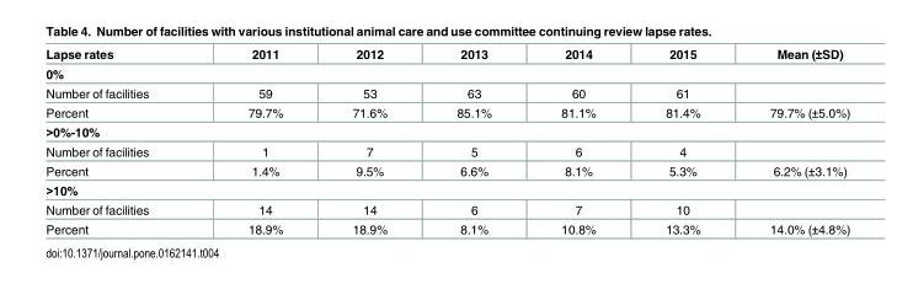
<table><thead><tr><td>Lapse rates</td><td>2011</td><td>2012</td><td>2013</td><td>2014</td><td>2015</td><td>Mean (±SD)</td></tr></thead><tbody><tr><td colspan="7">0%</td></tr><tr><td>Number of facilities</td><td>59</td><td>53</td><td>63</td><td>60</td><td>61</td><td></td></tr><tr><td>Percent</td><td>79.7%</td><td>71.6%</td><td>85.1%</td><td>81.1%</td><td>81.4%</td><td>79.7% (±5.0%)</td></tr><tr><td colspan="7">&gt;0%-10%</td></tr><tr><td>Number of facilities</td><td>1</td><td>7</td><td>5</td><td>6</td><td>4</td><td></td></tr><tr><td>Percent</td><td>1.4%</td><td>9.5%</td><td>6.6%</td><td>8.1%</td><td>5.3%</td><td>6.2% (±3.1%)</td></tr><tr><td colspan="7">&gt;10%</td></tr><tr><td>Number of facilities</td><td>14</td><td>14</td><td>6</td><td>7</td><td>10</td><td></td></tr><tr><td>Percent</td><td>18.9%</td><td>18.9%</td><td>8.1%</td><td>10.8%</td><td>13.3%</td><td>14.0% (±4.8%)</td></tr></tbody></table>